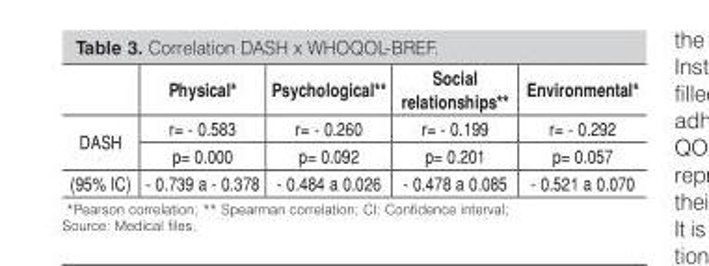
<table><thead><tr><td></td><td>Physical*</td><td>Psychological**</td><td>Social relationships**</td><td>Environmental*</td></tr></thead><tbody><tr><td rowspan="2">DASH</td><td>r= - 0.583</td><td>r= - 0.260</td><td>r= - 0.199</td><td>r= - 0.292</td></tr><tr><td>p= 0.000</td><td>p= 0.092</td><td>p= 0.201</td><td>p= 0.057</td></tr><tr><td>(95% IC)</td><td>- 0.739 a - 0.378</td><td>- 0.484 a 0.026</td><td>- 0.478 a 0.085</td><td>- 0.521 a 0.070</td></tr></tbody></table>